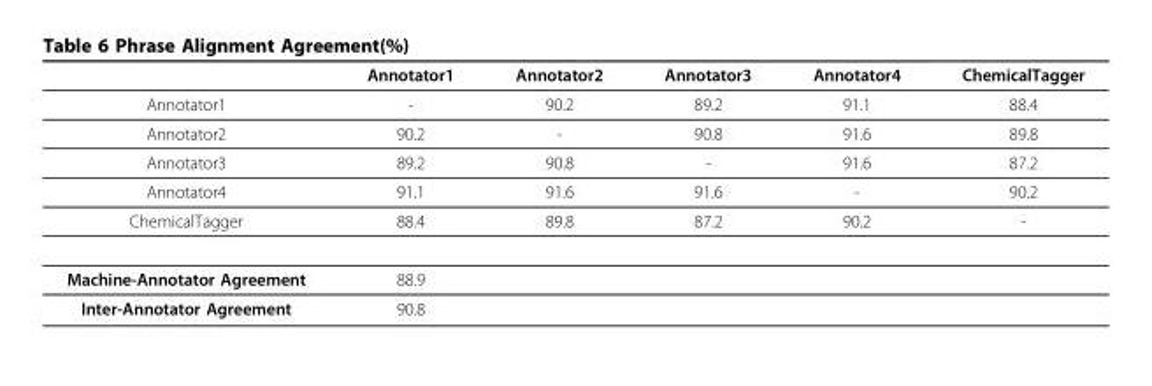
<table><thead><tr><td></td><td>Annotator1</td><td>Annotator2</td><td>Annotator3</td><td>Annotator4</td><td>ChemicalTagger</td></tr></thead><tbody><tr><td>Annotator1</td><td>-</td><td>90.2</td><td>89.2</td><td>91.1</td><td>88.4</td></tr><tr><td>Annotator2</td><td>90.2</td><td>-</td><td>90.8</td><td>91.6</td><td>89.8</td></tr><tr><td>Annotator3</td><td>89.2</td><td>90.8</td><td>-</td><td>91.6</td><td>87.2</td></tr><tr><td>Annotator4</td><td>91.1</td><td>91.6</td><td>91.6</td><td>-</td><td>90.2</td></tr><tr><td>ChemicalTagger</td><td>88.4</td><td>89.8</td><td>87.2</td><td>90.2</td><td>-</td></tr><tr><td>Machine-Annotator Agreement</td><td>88.9</td><td></td><td></td><td></td><td></td></tr><tr><td>Inter-Annotator Agreement</td><td>90.8</td><td></td><td></td><td></td><td></td></tr></tbody></table>